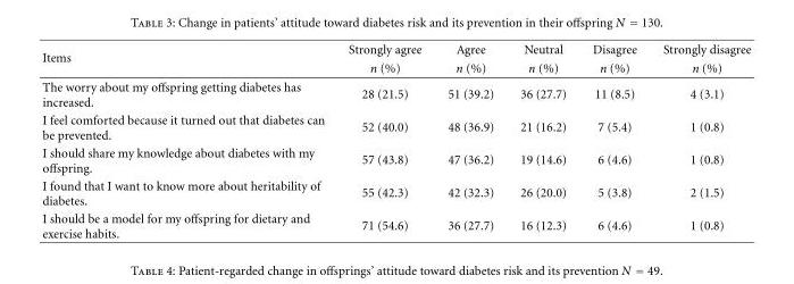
<table><thead><tr><td rowspan="2">Items</td><td rowspan="2">Strongly agree n (%)</td><td rowspan="2">Agree n (%)</td><td rowspan="2">Neutral n (%)</td><td rowspan="2">Disagree n (%)</td><td rowspan="2">Strongly disagree n (%)</td></tr><tr></tr></thead><tbody><tr><td>The worry about my offspring getting diabetes has increased.</td><td>28 (21.5)</td><td>51 (39.2)</td><td>36 (27.7)</td><td>11 (8.5)</td><td>4 (3.1)</td></tr><tr><td>I feel comforted because it turned out that diabetes can be prevented.</td><td>52 (40.0)</td><td>48 (36.9)</td><td>21 (16.2)</td><td>7 (5.4)</td><td>1 (0.8)</td></tr><tr><td>I should share my knowledge about diabetes with my offspring.</td><td>57 (43.8)</td><td>47 (36.2)</td><td>19 (14.6)</td><td>6 (4.6)</td><td>1 (0.8)</td></tr><tr><td>I found that I want to know more about heritability of diabetes.</td><td>55 (42.3)</td><td>42 (32.3)</td><td>26 (20.0)</td><td>5 (3.8)</td><td>2 (1.5)</td></tr><tr><td>I should be a model for my offspring for dietary and exercise habits.</td><td>71 (54.6)</td><td>36 (27.7)</td><td>16 (12.3)</td><td>6 (4.6)</td><td>1 (0.8)</td></tr></tbody></table>